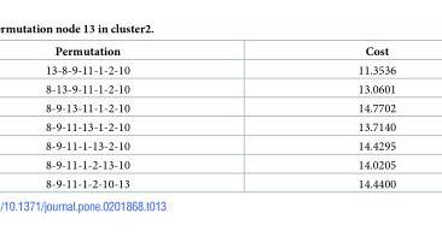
<table><thead><tr><td>Permutation</td><td>Cost</td></tr></thead><tbody><tr><td>13-8-9-11-1-2-10</td><td>11.3536</td></tr><tr><td>8-13-9-11-1-2-10</td><td>13.0601</td></tr><tr><td>8-9-13-11-1-2-10</td><td>14.7702</td></tr><tr><td>8-9-11-13-1-2-10</td><td>13.7140</td></tr><tr><td>8-9-11-1-13-2-10</td><td>14.4295</td></tr><tr><td>8-9-11-1-2-13-10</td><td>14.0205</td></tr><tr><td>8-9-11-1-2-10-13</td><td>14.4400</td></tr></tbody></table>